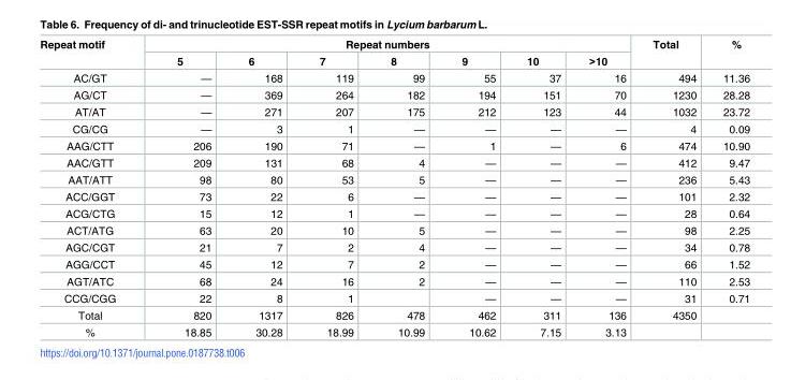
<table><thead><tr><td rowspan="2">Repeat motif</td><td colspan="7">Repeat numbers</td><td rowspan="2">Total</td><td rowspan="2">%</td></tr><tr><td>5</td><td>6</td><td>7</td><td>8</td><td>9</td><td>10</td><td>&gt;10</td></tr></thead><tbody><tr><td>AC/GT</td><td>—</td><td>168</td><td>119</td><td>99</td><td>55</td><td>37</td><td>16</td><td>494</td><td>11.36</td></tr><tr><td>AG/CT</td><td>—</td><td>369</td><td>264</td><td>182</td><td>194</td><td>151</td><td>70</td><td>1230</td><td>28.28</td></tr><tr><td>AT/AT</td><td>—</td><td>271</td><td>207</td><td>175</td><td>212</td><td>123</td><td>44</td><td>1032</td><td>23.72</td></tr><tr><td>CG/CG</td><td>—</td><td>3</td><td>1</td><td>—</td><td>—</td><td>—</td><td>—</td><td>4</td><td>0.09</td></tr><tr><td>AAG/CTT</td><td>206</td><td>190</td><td>71</td><td>—</td><td>1</td><td>—</td><td>6</td><td>474</td><td>10.90</td></tr><tr><td>AAC/GTT</td><td>209</td><td>131</td><td>68</td><td>4</td><td>—</td><td>—</td><td>—</td><td>412</td><td>9.47</td></tr><tr><td>AAT/ATT</td><td>98</td><td>80</td><td>53</td><td>5</td><td>—</td><td>—</td><td>—</td><td>236</td><td>5.43</td></tr><tr><td>ACC/GGT</td><td>73</td><td>22</td><td>6</td><td>—</td><td>—</td><td>—</td><td>—</td><td>101</td><td>2.32</td></tr><tr><td>ACG/CTG</td><td>15</td><td>12</td><td>1</td><td>—</td><td>—</td><td>—</td><td>—</td><td>28</td><td>0.64</td></tr><tr><td>ACT/ATG</td><td>63</td><td>20</td><td>10</td><td>5</td><td>—</td><td>—</td><td>—</td><td>98</td><td>2.25</td></tr><tr><td>AGC/CGT</td><td>21</td><td>7</td><td>2</td><td>4</td><td>—</td><td>—</td><td>—</td><td>34</td><td>0.78</td></tr><tr><td>AGG/CCT</td><td>45</td><td>12</td><td>7</td><td>2</td><td>—</td><td>—</td><td>—</td><td>66</td><td>1.52</td></tr><tr><td>AGT/ATC</td><td>68</td><td>24</td><td>16</td><td>2</td><td>—</td><td>—</td><td>—</td><td>110</td><td>2.53</td></tr><tr><td>CCG/CGG</td><td>22</td><td>8</td><td>1</td><td></td><td>—</td><td>—</td><td>—</td><td>31</td><td>0.71</td></tr><tr><td>Total</td><td>820</td><td>1317</td><td>826</td><td>478</td><td>462</td><td>311</td><td>136</td><td>4350</td><td></td></tr><tr><td>%</td><td>18.85</td><td>30.28</td><td>18.99</td><td>10.99</td><td>10.62</td><td>7.15</td><td>3.13</td><td></td><td></td></tr></tbody></table>